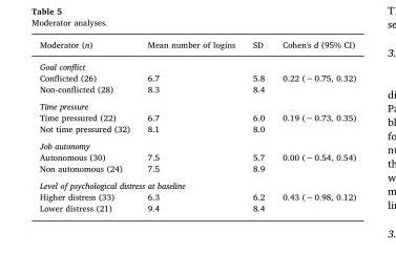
<table><thead><tr><td>Moderator (n)</td><td>Mean number of logins</td><td>SD</td><td>Cohen&#x27;s d (95% CI)</td></tr></thead><tbody><tr><td colspan="4">Goal conflict</td></tr><tr><td>Conflicted (26)</td><td>6.7</td><td>5.8</td><td rowspan="2">0.22 (−0.75, 0.32)</td></tr><tr><td>Non-conflicted (28)</td><td>8.3</td><td>8.4</td></tr><tr><td colspan="4">Time pressure</td></tr><tr><td>Time pressured (22)</td><td>6.7</td><td>6.0</td><td rowspan="2">0.19 (−0.73, 0.35)</td></tr><tr><td>Not time pressured (32)</td><td>8.1</td><td>8.0</td></tr><tr><td colspan="4">Job autonomy</td></tr><tr><td>Autonomous (30)</td><td>7.5</td><td>5.7</td><td rowspan="2">0.00 (−0.54, 0.54)</td></tr><tr><td>Non autonomous (24)</td><td>7.5</td><td>8.9</td></tr><tr><td colspan="4">Level of psychological distress at baseline</td></tr><tr><td>Higher distress (33)</td><td>6.3</td><td>6.2</td><td rowspan="2">0.43 (−0.98, 0.12)</td></tr><tr><td>Lower distress (21)</td><td>9.4</td><td>8.4</td></tr></tbody></table>